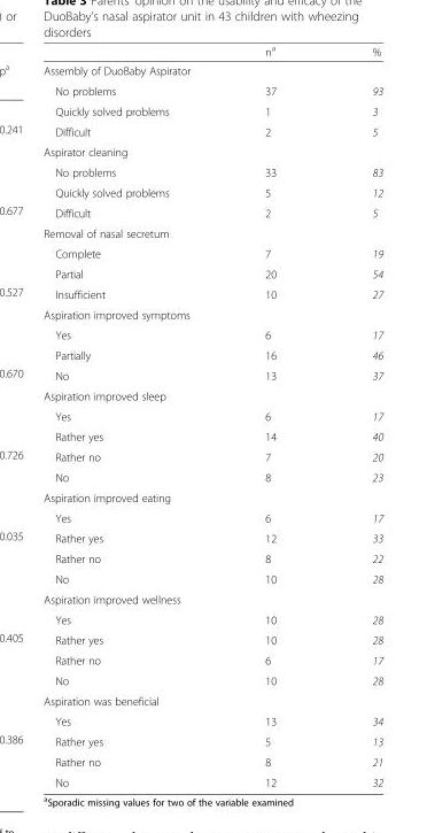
<table><thead><tr><td></td><td>n<sup>a</sup></td><td>%</td></tr></thead><tbody><tr><td colspan="3">Assembly of DuoBaby Aspirator</td></tr><tr><td>No problems</td><td>37</td><td>93</td></tr><tr><td>Quickly solved problems</td><td>1</td><td>3</td></tr><tr><td>Difficult</td><td>2</td><td>5</td></tr><tr><td colspan="3">Aspirator cleaning</td></tr><tr><td>No problems</td><td>33</td><td>83</td></tr><tr><td>Quickly solved problems</td><td>5</td><td>12</td></tr><tr><td>Difficult</td><td>2</td><td>5</td></tr><tr><td colspan="3">Removal of nasal secretum</td></tr><tr><td>Complete</td><td>7</td><td>19</td></tr><tr><td>Partial</td><td>20</td><td>54</td></tr><tr><td>Insufficient</td><td>10</td><td>27</td></tr><tr><td colspan="3">Aspiration improved symptoms</td></tr><tr><td>Yes</td><td>6</td><td>17</td></tr><tr><td>Partially</td><td>16</td><td>46</td></tr><tr><td>No</td><td>13</td><td>37</td></tr><tr><td colspan="3">Aspiration improved sleep</td></tr><tr><td>Yes</td><td>6</td><td>17</td></tr><tr><td>Rather yes</td><td>14</td><td>40</td></tr><tr><td>Rather no</td><td>7</td><td>20</td></tr><tr><td>No</td><td>8</td><td>23</td></tr><tr><td colspan="3">Aspiration improved eating</td></tr><tr><td>Yes</td><td>6</td><td>17</td></tr><tr><td>Rather yes</td><td>12</td><td>33</td></tr><tr><td>Rather no</td><td>8</td><td>22</td></tr><tr><td>No</td><td>10</td><td>28</td></tr><tr><td colspan="3">Aspiration improved wellness</td></tr><tr><td>Yes</td><td>10</td><td>28</td></tr><tr><td>Rather yes</td><td>10</td><td>28</td></tr><tr><td>Rather no</td><td>6</td><td>17</td></tr><tr><td>No</td><td>10</td><td>28</td></tr><tr><td colspan="3">Aspiration was beneficial</td></tr><tr><td>Yes</td><td>13</td><td>34</td></tr><tr><td>Rather yes</td><td>5</td><td>13</td></tr><tr><td>Rather no</td><td>8</td><td>21</td></tr><tr><td>No</td><td>12</td><td>32</td></tr></tbody></table>